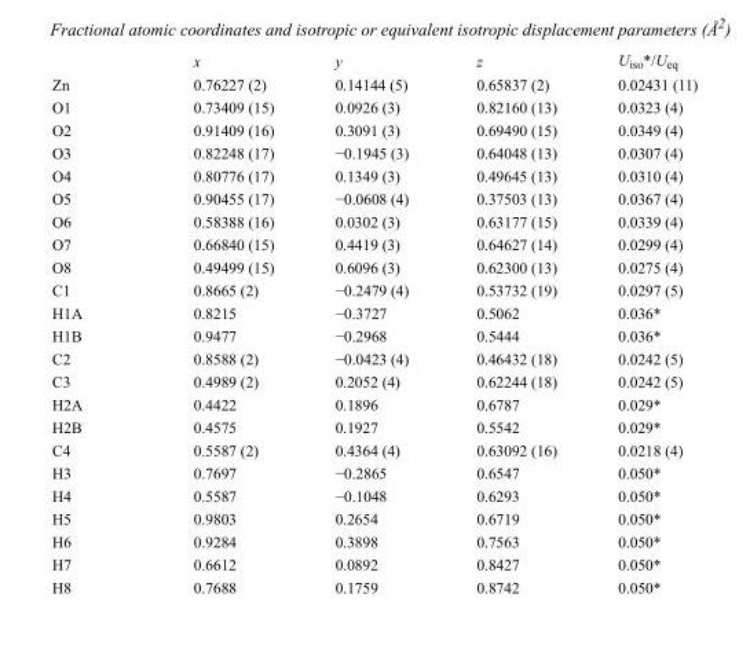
<table><thead><tr><td></td><td>x</td><td>y</td><td>z</td><td>U<sub>iso</sub>*/U<sub>eq</sub></td></tr></thead><tbody><tr><td>Zn</td><td>0.76227 (2)</td><td>0.14144 (5)</td><td>0.65837 (2)</td><td>0.02431 (11)</td></tr><tr><td>O1</td><td>0.73409 (15)</td><td>0.0926 (3)</td><td>0.82160 (13)</td><td>0.0323 (4)</td></tr><tr><td>O2</td><td>0.91409 (16)</td><td>0.3091 (3)</td><td>0.69490 (15)</td><td>0.0349 (4)</td></tr><tr><td>O3</td><td>0.82248 (17)</td><td>−0.1945 (3)</td><td>0.64048 (13)</td><td>0.0307 (4)</td></tr><tr><td>O4</td><td>0.80776 (17)</td><td>0.1349 (3)</td><td>0.49645 (13)</td><td>0.0310 (4)</td></tr><tr><td>O5</td><td>0.90455 (17)</td><td>−0.0608 (4)</td><td>0.37503 (13)</td><td>0.0367 (4)</td></tr><tr><td>O6</td><td>0.58388 (16)</td><td>0.0302 (3)</td><td>0.63177 (15)</td><td>0.0339 (4)</td></tr><tr><td>O7</td><td>0.66840 (15)</td><td>0.4419 (3)</td><td>0.64627 (14)</td><td>0.0299 (4)</td></tr><tr><td>O8</td><td>0.49499 (15)</td><td>0.6096 (3)</td><td>0.62300 (13)</td><td>0.0275 (4)</td></tr><tr><td>C1</td><td>0.8665 (2)</td><td>−0.2479 (4)</td><td>0.53732 (19)</td><td>0.0297 (5)</td></tr><tr><td>H1A</td><td>0.8215</td><td>−0.3727</td><td>0.5062</td><td>0.036*</td></tr><tr><td>H1B</td><td>0.9477</td><td>−0.2968</td><td>0.5444</td><td>0.036*</td></tr><tr><td>C2</td><td>0.8588 (2)</td><td>−0.0423 (4)</td><td>0.46432 (18)</td><td>0.0242 (5)</td></tr><tr><td>C3</td><td>0.4989 (2)</td><td>0.2052 (4)</td><td>0.62244 (18)</td><td>0.0242 (5)</td></tr><tr><td>H2A</td><td>0.4422</td><td>0.1896</td><td>0.6787</td><td>0.029*</td></tr><tr><td>H2B</td><td>0.4575</td><td>0.1927</td><td>0.5542</td><td>0.029*</td></tr><tr><td>C4</td><td>0.5587 (2)</td><td>0.4364 (4)</td><td>0.63092 (16)</td><td>0.0218 (4)</td></tr><tr><td>H3</td><td>0.7697</td><td>−0.2865</td><td>0.6547</td><td>0.050*</td></tr><tr><td>H4</td><td>0.5587</td><td>−0.1048</td><td>0.6293</td><td>0.050*</td></tr><tr><td>H5</td><td>0.9803</td><td>0.2654</td><td>0.6719</td><td>0.050*</td></tr><tr><td>H6</td><td>0.9284</td><td>0.3898</td><td>0.7563</td><td>0.050*</td></tr><tr><td>H7</td><td>0.6612</td><td>0.0892</td><td>0.8427</td><td>0.050*</td></tr><tr><td>H8</td><td>0.7688</td><td>0.1759</td><td>0.8742</td><td>0.050*</td></tr></tbody></table>